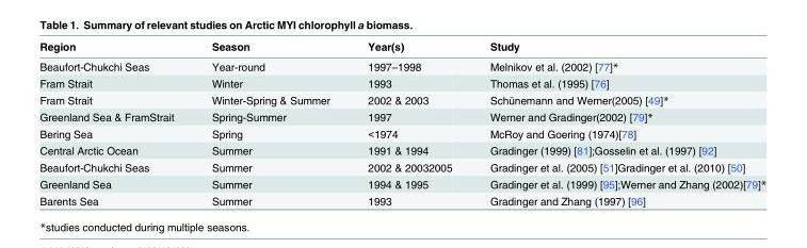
<table><thead><tr><td>Region</td><td>Season</td><td>Year(s)</td><td>Study</td></tr></thead><tbody><tr><td>Beaufort-Chukchi Seas</td><td>Year-round</td><td>1997–1998</td><td>Melnikov et al. (2002) [77]*</td></tr><tr><td>Fram Strait</td><td>Winter</td><td>1993</td><td>Thomas et al. (1995) [76]</td></tr><tr><td>Fram Strait</td><td>Winter-Spring &amp; Summer</td><td>2002 &amp; 2003</td><td>Schünemann and Werner(2005) [49]*</td></tr><tr><td>Greenland Sea &amp; FramStrait</td><td>Spring-Summer</td><td>1997</td><td>Werner and Gradinger(2002) [79]*</td></tr><tr><td>Bering Sea</td><td>Spring</td><td>&lt;1974</td><td>McRoy and Goering (1974)[78]</td></tr><tr><td>Central Arctic Ocean</td><td>Summer</td><td>1991 &amp; 1994</td><td>Gradinger (1999) [81];Gosselin et al. (1997) [92]</td></tr><tr><td>Beaufort-Chukchi Seas</td><td>Summer</td><td>2002 &amp; 20032005</td><td>Gradinger et al. (2005) [51]Gradinger et al. (2010) [50]</td></tr><tr><td>Greenland Sea</td><td>Summer</td><td>1994 &amp; 1995</td><td>Gradinger et al. (1999) [95];Werner and Zhang (2002)[79]*</td></tr><tr><td>Barents Sea</td><td>Summer</td><td>1993</td><td>Gradinger and Zhang (1997) [96]</td></tr></tbody></table>